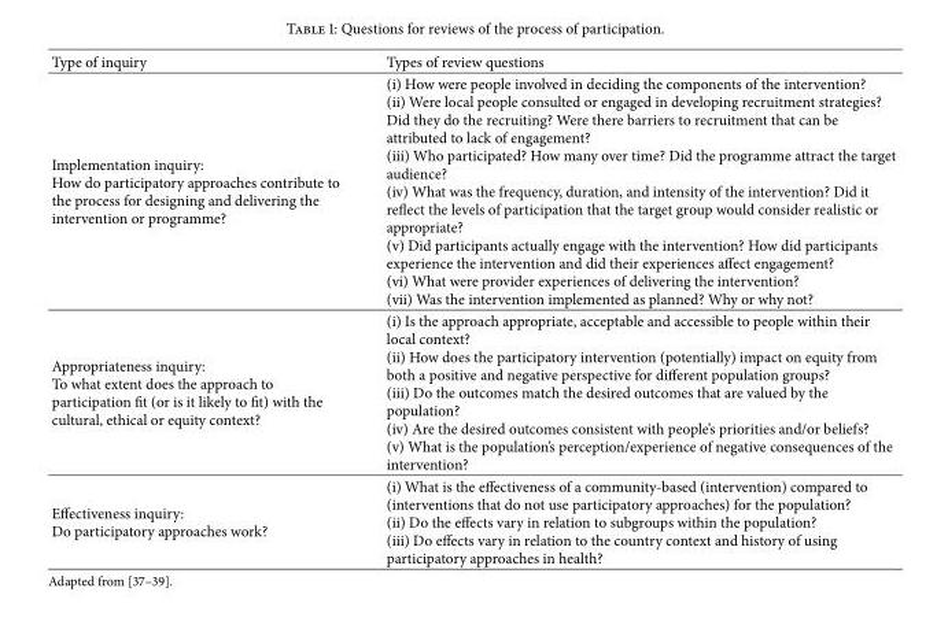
<table><thead><tr><td>Type of inquiry</td><td>Types of review questions</td></tr></thead><tbody><tr><td>Implementation inquiry: How do participatory approaches contribute to the process for designing and delivering the intervention or programme?</td><td>(i) How were people involved in deciding the components of the intervention? (ii) Were local people consulted or engaged in developing recruitment strategies? Did they do the recruiting? Were there barriers to recruitment that can be attributed to lack of engagement? (iii) Who participated? How many over time? Did the programme attract the target audience? (iv) What was the frequency, duration, and intensity of the intervention? Did it reflect the levels of participation that the target group would consider realistic or appropriate? (v) Did participants actually engage with the intervention? How did participants experience the intervention and did their experiences affect engagement? (vi) What were provider experiences of delivering the intervention? (vii) Was the intervention implemented as planned? Why or why not?</td></tr><tr><td>Appropriateness inquiry: To what extent does the approach to participation fit (or is it likely to fit) with the cultural, ethical or equity context?</td><td>(i) Is the approach appropriate, acceptable and accessible to people within their local context? (ii) How does the participatory intervention (potentially) impact on equity from both a positive and negative perspective for different population groups? (iii) Do the outcomes match the desired outcomes that are valued by the population? (iv) Are the desired outcomes consistent with people’s priorities and/or beliefs? (v) What is the population’s perception/experience of negative consequences of the intervention?</td></tr><tr><td>Effectiveness inquiry: Do participatory approaches work?</td><td>(i) What is the effectiveness of a community-based (intervention) compared to (interventions that do not use participatory approaches) for the population? (ii) Do the effects vary in relation to subgroups within the population? (iii) Do effects vary in relation to the country context and history of using participatory approaches in health?</td></tr></tbody></table>